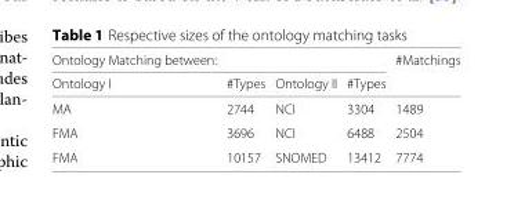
<table><thead><tr><td rowspan="2">Ontology Matching between: Ontology I</td><td rowspan="2">#Types</td><td rowspan="2">Ontology II</td><td rowspan="2">#Types</td><td rowspan="2">#Matchings</td></tr><tr></tr></thead><tbody><tr><td>MA</td><td>2744</td><td>NCI</td><td>3304</td><td>1489</td></tr><tr><td>FMA</td><td>3696</td><td>NCI</td><td>6488</td><td>2504</td></tr><tr><td>FMA</td><td>10157</td><td>SNOMED</td><td>13412</td><td>7774</td></tr></tbody></table>